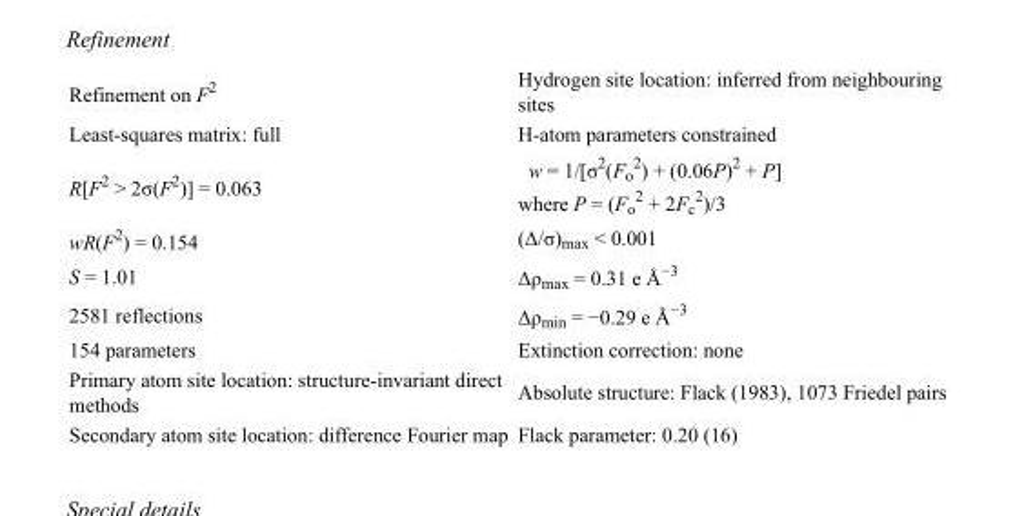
<table><tbody><tr><td>Refinement on F<sup>2</sup></td><td>Hydrogen site location: inferred from neighbouring sites</td></tr><tr><td>Least-squares matrix: full</td><td>H-atom parameters constrained</td></tr><tr><td>R[F<sup>2</sup> &gt; 2σ(F<sup>2</sup>)] = 0.063</td><td>w = 1/[σ<sup>2</sup>(F<sub>o</sub> <sup>2</sup>) + (0.06P)<sup>2</sup> + P] where P = (F<sub>o</sub> <sup>2</sup> + 2F<sub>c</sub> <sup>2</sup>)/3</td></tr><tr><td>wR(F<sup>2</sup>) = 0.154</td><td>(Δ/σ)<sub>max</sub> &lt; 0.001</td></tr><tr><td>S = 1.01</td><td>Δρ<sub>max</sub> = 0.31 e Å<sup>−3</sup></td></tr><tr><td>2581 reflections</td><td>Δρ<sub>min</sub> = −0.29 e Å<sup>−3</sup></td></tr><tr><td>154 parameters</td><td>Extinction correction: none</td></tr><tr><td>Primary atom site location: structure-invariant direct methods</td><td>Absolute structure: Flack (1983), 1073 Friedel pairs</td></tr><tr><td>Secondary atom site location: difference Fourier map</td><td>Flack parameter: 0.20 (16)</td></tr></tbody></table>